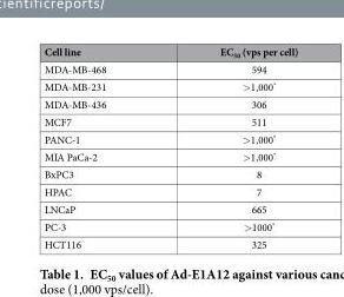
<table><thead><tr><td>Cell line</td><td>EC<sub>50</sub> (vps per cell)</td></tr></thead><tbody><tr><td>MDA-MB-468</td><td>594</td></tr><tr><td>MDA-MB-231</td><td>&gt; 1,000*</td></tr><tr><td>MDA-MB-436</td><td>306</td></tr><tr><td>MCF7</td><td>511</td></tr><tr><td>PANC-1</td><td>&gt; 1,000*</td></tr><tr><td>MIA PaCa-2</td><td>&gt; 1,000*</td></tr><tr><td>BxPC3</td><td>8</td></tr><tr><td>HPAC</td><td>7</td></tr><tr><td>LNCaP</td><td>665</td></tr><tr><td>PC-3</td><td>&gt; 1000*</td></tr><tr><td>HCT116</td><td>325</td></tr></tbody></table>